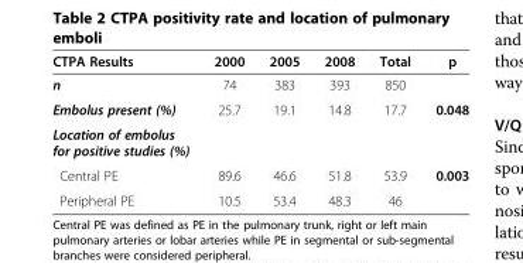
<table><thead><tr><td>CTPA Results</td><td>2000</td><td>2005</td><td>2008</td><td>Total</td><td>p</td></tr></thead><tbody><tr><td>n</td><td>74</td><td>383</td><td>393</td><td>850</td><td></td></tr><tr><td>Embolus present (%)</td><td>25.7</td><td>19.1</td><td>14.8</td><td>17.7</td><td>0.048</td></tr><tr><td colspan="6">Location of embolus for positive studies (%)</td></tr><tr><td>Central PE</td><td>89.6</td><td>46.6</td><td>51.8</td><td>53.9</td><td>0.003</td></tr><tr><td>Peripheral PE</td><td>10.5</td><td>53.4</td><td>48.3</td><td>46</td><td></td></tr></tbody></table>